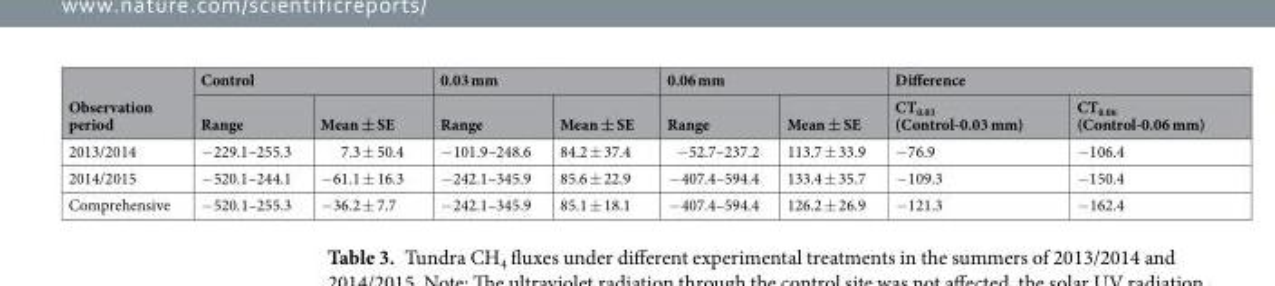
<table><thead><tr><td rowspan="2">Observation period</td><td colspan="2">Control</td><td colspan="2">0.03 mm</td><td colspan="2">0.06 mm</td><td colspan="2">Difference</td></tr><tr><td>Range</td><td>Mean ± SE</td><td>Range</td><td>Mean ± SE</td><td>Range</td><td>Mean ± SE</td><td>CT<sub>0.03</sub> (Control-0.03 mm)</td><td>CT<sub>0.06</sub> (Control-0.06 mm)</td></tr></thead><tbody><tr><td>2013/2014</td><td>−229.1–255.3</td><td>7.3 ± 50.4</td><td>−101.9–248.6</td><td>84.2 ± 37.4</td><td>−52.7–237.2</td><td>113.7 ± 33.9</td><td>−76.9</td><td>−106.4</td></tr><tr><td>2014/2015</td><td>−520.1–244.1</td><td>−61.1 ± 16.3</td><td>−242.1–345.9</td><td>85.6 ± 22.9</td><td>−407.4–594.4</td><td>133.4 ± 35.7</td><td>−109.3</td><td>−150.4</td></tr><tr><td>Comprehensive</td><td>−520.1–255.3</td><td>−36.2 ± 7.7</td><td>−242.1–345.9</td><td>85.1 ± 18.1</td><td>−407.4–594.4</td><td>126.2 ± 26.9</td><td>−121.3</td><td>−162.4</td></tr></tbody></table>